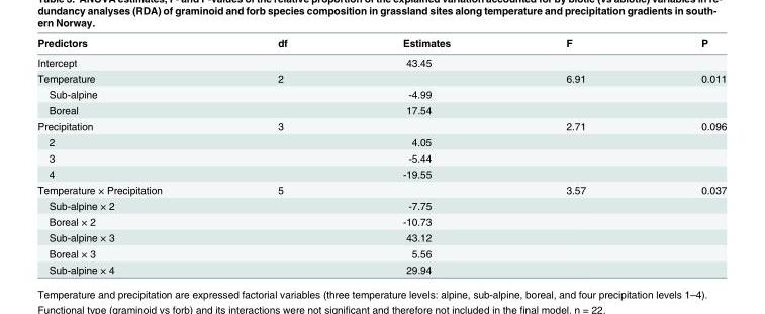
<table><thead><tr><td>Predictors</td><td>df</td><td>Estimates</td><td>F</td><td>P</td></tr></thead><tbody><tr><td>Intercept</td><td></td><td>43.45</td><td></td><td></td></tr><tr><td>Temperature</td><td>2</td><td></td><td>6.91</td><td>0.011</td></tr><tr><td>Sub-alpine</td><td></td><td>-4.99</td><td></td><td></td></tr><tr><td>Boreal</td><td></td><td>17.54</td><td></td><td></td></tr><tr><td>Precipitation</td><td>3</td><td></td><td>2.71</td><td>0.096</td></tr><tr><td>2</td><td></td><td>4.05</td><td></td><td></td></tr><tr><td>3</td><td></td><td>-5.44</td><td></td><td></td></tr><tr><td>4</td><td></td><td>-19.55</td><td></td><td></td></tr><tr><td>Temperature × Precipitation</td><td>5</td><td></td><td>3.57</td><td>0.037</td></tr><tr><td>Sub-alpine × 2</td><td></td><td>-7.75</td><td></td><td></td></tr><tr><td>Boreal × 2</td><td></td><td>-10.73</td><td></td><td></td></tr><tr><td>Sub-alpine × 3</td><td></td><td>43.12</td><td></td><td></td></tr><tr><td>Boreal × 3</td><td></td><td>5.56</td><td></td><td></td></tr><tr><td>Sub-alpine × 4</td><td></td><td>29.94</td><td></td><td></td></tr></tbody></table>